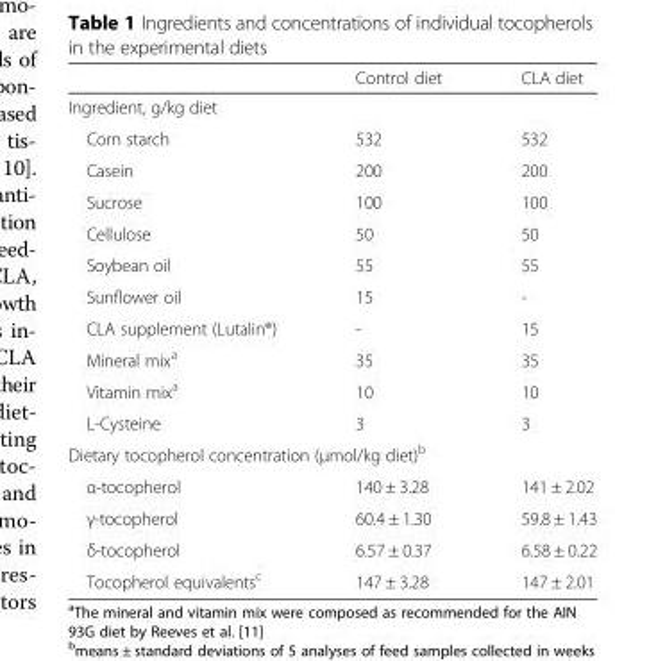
<table><thead><tr><td></td><td>Control diet</td><td>CLA diet</td></tr></thead><tbody><tr><td colspan="3">Ingredient, g/kg diet</td></tr><tr><td>Corn starch</td><td>532</td><td>532</td></tr><tr><td>Casein</td><td>200</td><td>200</td></tr><tr><td>Sucrose</td><td>100</td><td>100</td></tr><tr><td>Cellulose</td><td>50</td><td>50</td></tr><tr><td>Soybean oil</td><td>55</td><td>55</td></tr><tr><td>Sunflower oil</td><td>15</td><td>-</td></tr><tr><td>CLA supplement (Lutalin®)</td><td>-</td><td>15</td></tr><tr><td>Mineral mix<sup>a</sup></td><td>35</td><td>35</td></tr><tr><td>Vitamin mix<sup>a</sup></td><td>10</td><td>10</td></tr><tr><td>L-Cysteine</td><td>3</td><td>3</td></tr><tr><td colspan="3">Dietary tocopherol concentration (μmol/kg diet)<sup>b</sup></td></tr><tr><td>α-tocopherol</td><td>140 ± 3.28</td><td>141 ± 2.02</td></tr><tr><td>γ-tocopherol</td><td>60.4 ± 1.30</td><td>59.8 ± 1.43</td></tr><tr><td>δ-tocopherol</td><td>6.57 ± 0.37</td><td>6.58 ± 0.22</td></tr><tr><td>Tocopherol equivalents<sup>c</sup></td><td>147 ± 3.28</td><td>147 ± 2.01</td></tr></tbody></table>